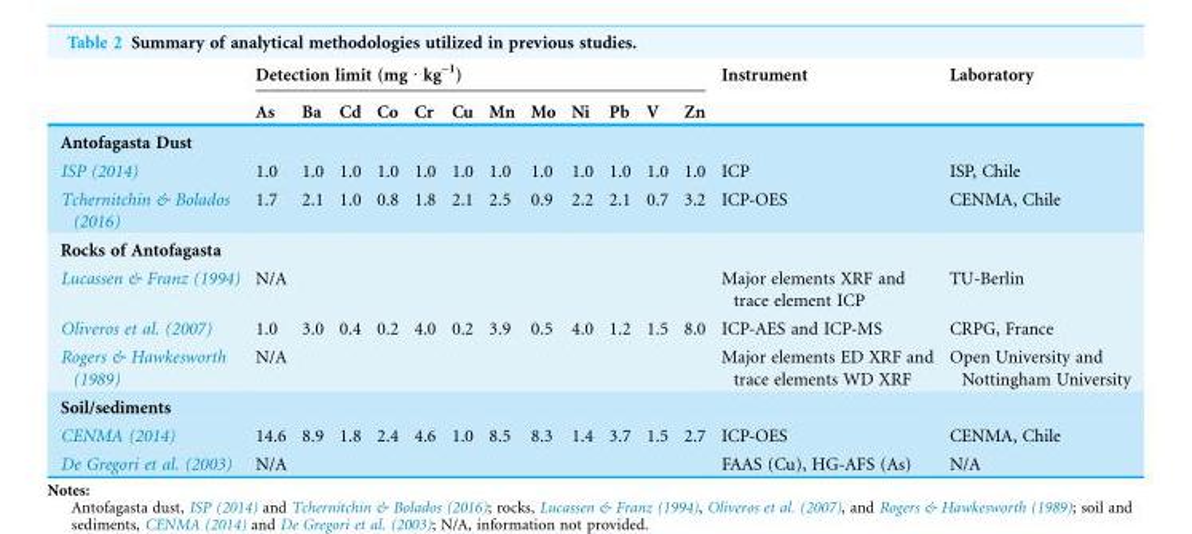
<table><thead><tr><td rowspan="2"></td><td colspan="12">Detection limit (mg · kg<sup>-1</sup>)</td><td rowspan="2">Instrument</td><td rowspan="2">Laboratory</td></tr><tr><td>As</td><td>Ba</td><td>Cd</td><td>Co</td><td>Cr</td><td>Cu</td><td>Mn</td><td>Mo</td><td>Ni</td><td>Pb</td><td>V</td><td>Zn</td></tr></thead><tbody><tr><td colspan="15">Antofagasta Dust</td></tr><tr><td>ISP (2014)</td><td>1.0</td><td>1.0</td><td>1.0</td><td>1.0</td><td>1.0</td><td>1.0</td><td>1.0</td><td>1.0</td><td>1.0</td><td>1.0</td><td>1.0</td><td>1.0</td><td>ICP</td><td>ISP, Chile</td></tr><tr><td>Tchernitchin &amp; Bolados (2016)</td><td>1.7</td><td>2.1</td><td>1.0</td><td>0.8</td><td>1.8</td><td>2.1</td><td>2.5</td><td>0.9</td><td>2.2</td><td>2.1</td><td>0.7</td><td>3.2</td><td>ICP-OES</td><td>CENMA, Chile</td></tr><tr><td colspan="15">Rocks of Antofagasta</td></tr><tr><td>Lucassen &amp; Franz (1994)</td><td colspan="12">N/A</td><td>Major elements XRF and trace element ICP</td><td>TU-Berlin</td></tr><tr><td>Oliveros et al. (2007)</td><td>1.0</td><td>3.0</td><td>0.4</td><td>0.2</td><td>4.0</td><td>0.2</td><td>3.9</td><td>0.5</td><td>4.0</td><td>1.2</td><td>1.5</td><td>8.0</td><td>ICP-AES and ICP-MS</td><td>CRPG, France</td></tr><tr><td>Rogers &amp; Hawkesworth (1989)</td><td colspan="12">N/A</td><td>Major elements ED XRF and trace elements WD XRF</td><td>Open University and Nottingham University</td></tr><tr><td colspan="15">Soil/sediments</td></tr><tr><td>CENMA (2014)</td><td>14.6</td><td>8.9</td><td>1.8</td><td>2.4</td><td>4.6</td><td>1.0</td><td>8.5</td><td>8.3</td><td>1.4</td><td>3.7</td><td>1.5</td><td>2.7</td><td>ICP-OES</td><td>CENMA, Chile</td></tr><tr><td>De Gregori et al. (2003)</td><td colspan="12">N/A</td><td>FAAS (Cu), HG-AFS (As)</td><td>N/A</td></tr></tbody></table>